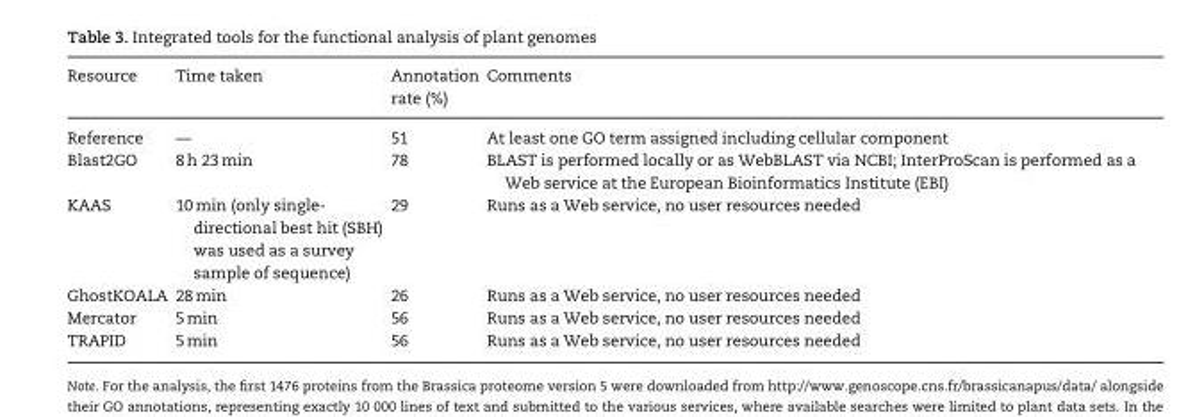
<table><thead><tr><td>Resource</td><td>Time taken</td><td>Annotation rate (%)</td><td>Comments</td></tr></thead><tbody><tr><td>Reference</td><td>—</td><td>51</td><td>At least one GO term assigned including cellular component</td></tr><tr><td>Blast2GO</td><td>8 h 23 min</td><td>78</td><td>BLAST is performed locally or as WebBLAST via NCBI; InterProScan is performed as a Web service at the European Bioinformatics Institute (EBI)</td></tr><tr><td>KAAS</td><td>10 min (only single- directional best hit (SBH) was used as a survey sample of sequence)</td><td>29</td><td>Runs as a Web service, no user resources needed</td></tr><tr><td>GhostKOALA</td><td>28 min</td><td>26</td><td>Runs as a Web service, no user resources needed</td></tr><tr><td>Mercator</td><td>5 min</td><td>56</td><td>Runs as a Web service, no user resources needed</td></tr><tr><td>TRAPID</td><td>5 min</td><td>56</td><td>Runs as a Web service, no user resources needed</td></tr></tbody></table>